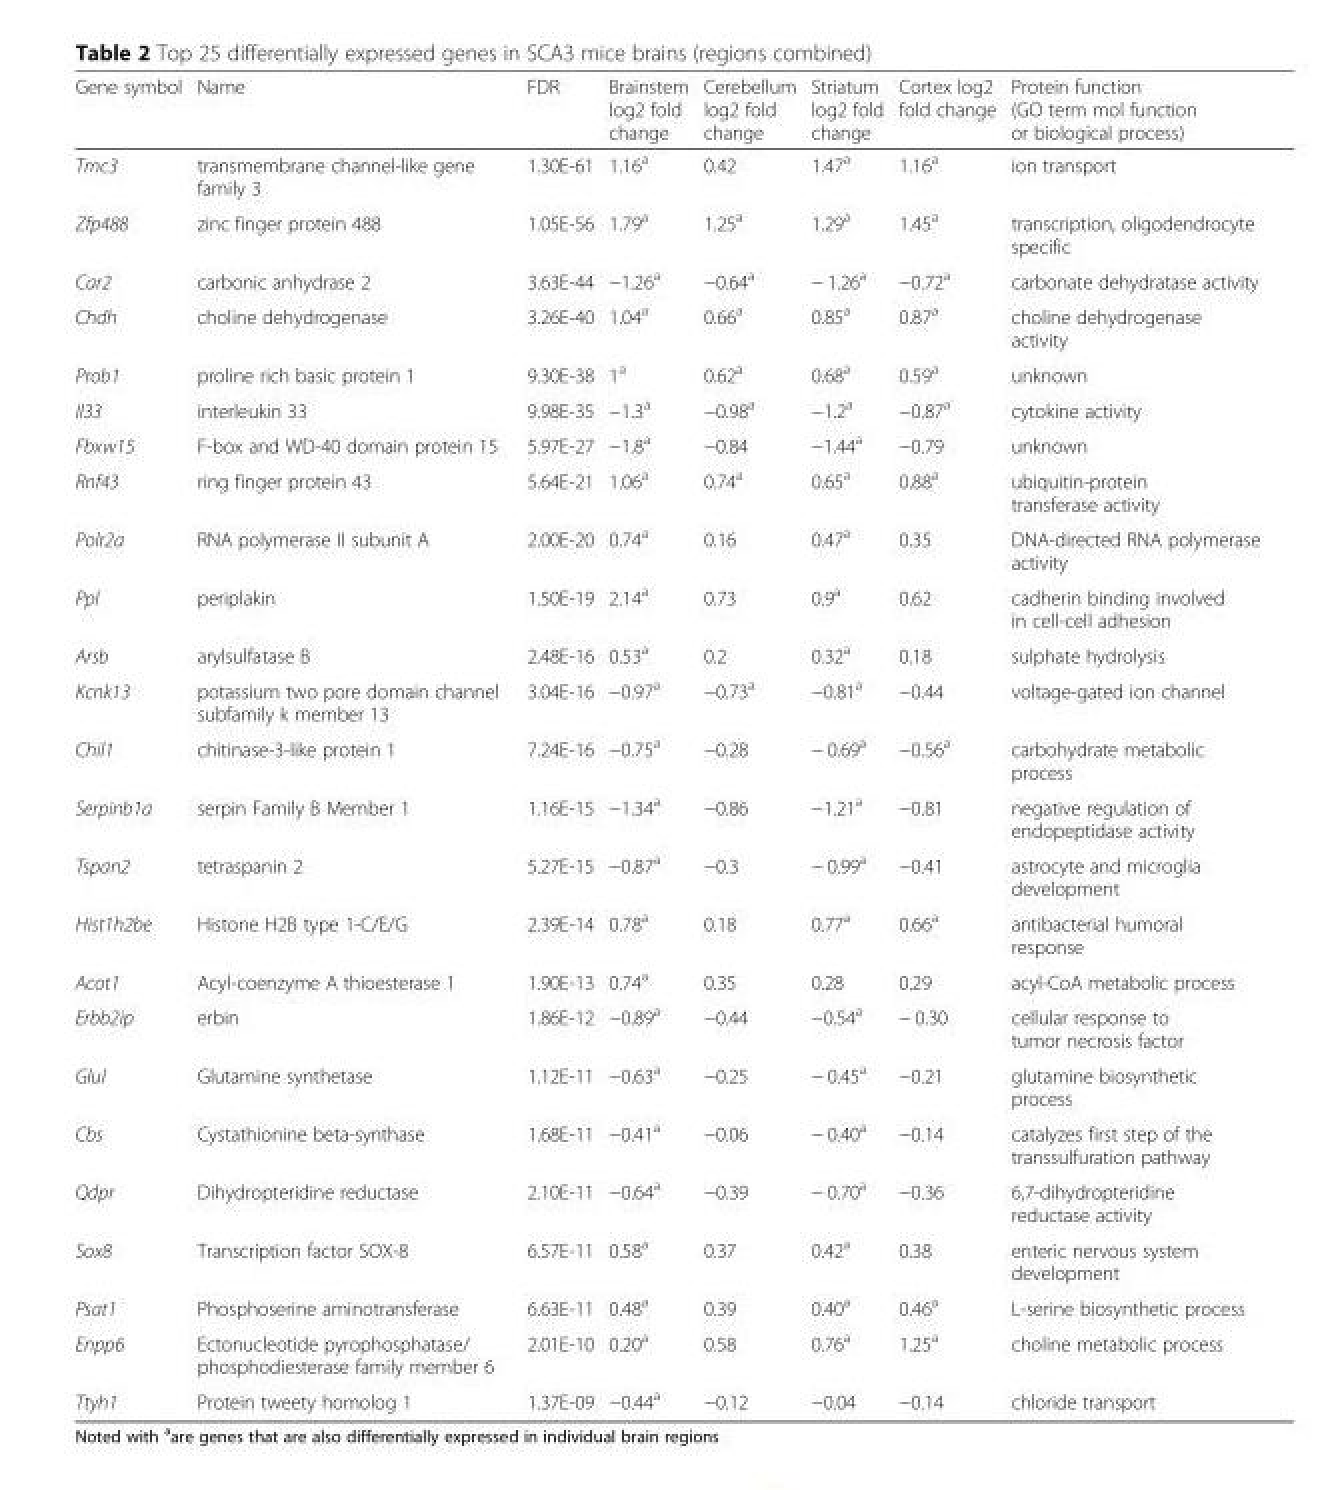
<table><thead><tr><td>Gene symbol</td><td>Name</td><td>FDR</td><td>Brainstem log2 fold change</td><td>Cerebellum log2 fold change</td><td>Striatum log2 fold change</td><td>Cortex log2 fold change</td><td>Protein function (GO term mol function or biological process)</td></tr></thead><tbody><tr><td>Tmc3</td><td>transmembrane channel-like gene family 3</td><td>1.30E-61</td><td>1.16<sup>a</sup></td><td>0.42</td><td>1.47<sup>a</sup></td><td>1.16<sup>a</sup></td><td>ion transport</td></tr><tr><td>Zfp488</td><td>zinc finger protein 488</td><td>1.05E-56</td><td>1.79<sup>a</sup></td><td>1.25<sup>a</sup></td><td>1.29<sup>a</sup></td><td>1.45<sup>a</sup></td><td>transcription, oligodendrocyte specific</td></tr><tr><td>Car2</td><td>carbonic anhydrase 2</td><td>3.63E-44</td><td>−1.26<sup>a</sup></td><td>−0.64<sup>a</sup></td><td>− 1.26<sup>a</sup></td><td>−0.72<sup>a</sup></td><td>carbonate dehydratase activity</td></tr><tr><td>Chdh</td><td>choline dehydrogenase</td><td>3.26E-40</td><td>1.04<sup>a</sup></td><td>0.66<sup>a</sup></td><td>0.85<sup>a</sup></td><td>0.87<sup>a</sup></td><td>choline dehydrogenase activity</td></tr><tr><td>Prob1</td><td>proline rich basic protein 1</td><td>9.30E-38</td><td>1<sup>a</sup></td><td>0.62<sup>a</sup></td><td>0.68<sup>a</sup></td><td>0.59<sup>a</sup></td><td>unknown</td></tr><tr><td>Il33</td><td>interleukin 33</td><td>9.98E-35</td><td>−1.3<sup>a</sup></td><td>−0.98<sup>a</sup></td><td>−1.2<sup>a</sup></td><td>−0.87<sup>a</sup></td><td>cytokine activity</td></tr><tr><td>Fbxw15</td><td>F-box and WD-40 domain protein 15</td><td>5.97E-27</td><td>−1.8<sup>a</sup></td><td>−0.84</td><td>−1.44<sup>a</sup></td><td>−0.79</td><td>unknown</td></tr><tr><td>Rnf43</td><td>ring finger protein 43</td><td>5.64E-21</td><td>1.06<sup>a</sup></td><td>0.74<sup>a</sup></td><td>0.65<sup>a</sup></td><td>0.88<sup>a</sup></td><td>ubiquitin-protein transferase activity</td></tr><tr><td>Polr2a</td><td>RNA polymerase II subunit A</td><td>2.00E-20</td><td>0.74<sup>a</sup></td><td>0.16</td><td>0.47<sup>a</sup></td><td>0.35</td><td>DNA-directed RNA polymerase activity</td></tr><tr><td>Ppl</td><td>periplakin</td><td>1.50E-19</td><td>2.14<sup>a</sup></td><td>0.73</td><td>0.9<sup>a</sup></td><td>0.62</td><td>cadherin binding involved in cell-cell adhesion</td></tr><tr><td>Arsb</td><td>arylsulfatase B</td><td>2.48E-16</td><td>0.53<sup>a</sup></td><td>0.2</td><td>0.32<sup>a</sup></td><td>0.18</td><td>sulphate hydrolysis</td></tr><tr><td>Kcnk13</td><td>potassium two pore domain channel subfamily k member 13</td><td>3.04E-16</td><td>−0.97<sup>a</sup></td><td>−0.73<sup>a</sup></td><td>−0.81<sup>a</sup></td><td>−0.44</td><td>voltage-gated ion channel</td></tr><tr><td>Chil1</td><td>chitinase-3-like protein 1</td><td>7.24E-16</td><td>−0.75<sup>a</sup></td><td>−0.28</td><td>− 0.69<sup>a</sup></td><td>−0.56<sup>a</sup></td><td>carbohydrate metabolic process</td></tr><tr><td>Serpinb1a</td><td>serpin Family B Member 1</td><td>1.16E-15</td><td>−1.34<sup>a</sup></td><td>−0.86</td><td>−1.21<sup>a</sup></td><td>−0.81</td><td>negative regulation of endopeptidase activity</td></tr><tr><td>Tspan2</td><td>tetraspanin 2</td><td>5.27E-15</td><td>−0.87<sup>a</sup></td><td>−0.3</td><td>− 0.99<sup>a</sup></td><td>−0.41</td><td>astrocyte and microglia development</td></tr><tr><td>Hist1h2be</td><td>Histone H2B type 1-C/E/G</td><td>2.39E-14</td><td>0.78<sup>a</sup></td><td>0.18</td><td>0.77<sup>a</sup></td><td>0.66<sup>a</sup></td><td>antibacterial humoral response</td></tr><tr><td>Acot1</td><td>Acyl-coenzyme A thioesterase 1</td><td>1.90E-13</td><td>0.74<sup>a</sup></td><td>0.35</td><td>0.28</td><td>0.29</td><td>acyl-CoA metabolic process</td></tr><tr><td>Erbb2ip</td><td>erbin</td><td>1.86E-12</td><td>−0.89<sup>a</sup></td><td>−0.44</td><td>−0.54<sup>a</sup></td><td>− 0.30</td><td>cellular response to tumor necrosis factor</td></tr><tr><td>Glul</td><td>Glutamine synthetase</td><td>1.12E-11</td><td>−0.63<sup>a</sup></td><td>−0.25</td><td>− 0.45<sup>a</sup></td><td>−0.21</td><td>glutamine biosynthetic process</td></tr><tr><td>Cbs</td><td>Cystathionine beta-synthase</td><td>1.68E-11</td><td>−0.41<sup>a</sup></td><td>−0.06</td><td>− 0.40<sup>a</sup></td><td>−0.14</td><td>catalyzes first step of the transsulfuration pathway</td></tr><tr><td>Qdpr</td><td>Dihydropteridine reductase</td><td>2.10E-11</td><td>−0.64<sup>a</sup></td><td>−0.39</td><td>− 0.70<sup>a</sup></td><td>−0.36</td><td>6,7-dihydropteridine reductase activity</td></tr><tr><td>Sox8</td><td>Transcription factor SOX-8</td><td>6.57E-11</td><td>0.58<sup>a</sup></td><td>0.37</td><td>0.42<sup>a</sup></td><td>0.38</td><td>enteric nervous system development</td></tr><tr><td>Psat1</td><td>Phosphoserine aminotransferase</td><td>6.63E-11</td><td>0.48<sup>a</sup></td><td>0.39</td><td>0.40<sup>a</sup></td><td>0.46<sup>a</sup></td><td>L-serine biosynthetic process</td></tr><tr><td>Enpp6</td><td>Ectonucleotide pyrophosphatase/ phosphodiesterase family member 6</td><td>2.01E-10</td><td>0.20<sup>a</sup></td><td>0.58</td><td>0.76<sup>a</sup></td><td>1.25<sup>a</sup></td><td>choline metabolic process</td></tr><tr><td>Ttyh1</td><td>Protein tweety homolog 1</td><td>1.37E-09</td><td>−0.44<sup>a</sup></td><td>−0.12</td><td>−0.04</td><td>−0.14</td><td>chloride transport</td></tr></tbody></table>